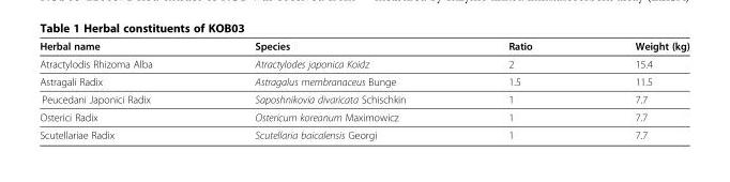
<table><thead><tr><td>Herbal name</td><td>Species</td><td>Ratio</td><td>Weight (kg)</td></tr></thead><tbody><tr><td>Atractylodis Rhizoma Alba</td><td>Atractylodes japonica Koidz</td><td>2</td><td>15.4</td></tr><tr><td>Astragali Radix</td><td>Astragalus membranaceus Bunge</td><td>1.5</td><td>11.5</td></tr><tr><td>Peucedani Japonici Radix</td><td>Saposhnikovia divaricata Schischkin</td><td>1</td><td>7.7</td></tr><tr><td>Osterici Radix</td><td>Ostericum koreanum Maximowicz</td><td>1</td><td>7.7</td></tr><tr><td>Scutellariae Radix</td><td>Scutellaria baicalensis Georgi</td><td>1</td><td>7.7</td></tr></tbody></table>